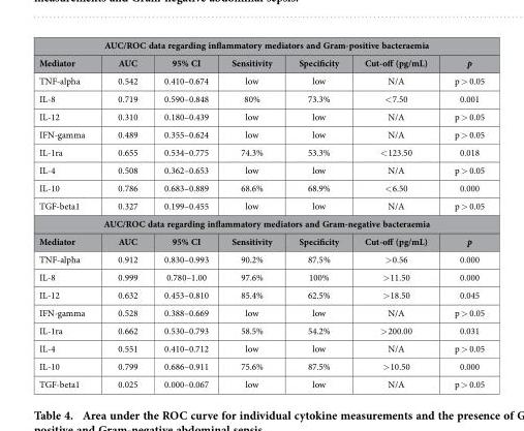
<table><thead><tr><td colspan="7">AUC/ROC data regarding inflammatory mediators and Gram-positive bacteraemia</td></tr><tr><td>Mediator</td><td>AUC</td><td>95% CI</td><td>Sensitivity</td><td>Specificity</td><td>Cut-off (pg/mL)</td><td>p</td></tr></thead><tbody><tr><td>TNF-alpha</td><td>0.542</td><td>0.410–0.674</td><td>low</td><td>low</td><td>N/A</td><td>p &gt; 0.05</td></tr><tr><td>IL-8</td><td>0.719</td><td>0.590–0.848</td><td>80%</td><td>73.3%</td><td>&lt; 7.50</td><td>0.001</td></tr><tr><td>IL-12</td><td>0.310</td><td>0.180–0.439</td><td>low</td><td>low</td><td>N/A</td><td>p &gt; 0.05</td></tr><tr><td>IFN-gamma</td><td>0.489</td><td>0.355–0.624</td><td>low</td><td>low</td><td>N/A</td><td>p &gt; 0.05</td></tr><tr><td>IL-1ra</td><td>0.655</td><td>0.534–0.775</td><td>74.3%</td><td>53.3%</td><td>&lt; 123.50</td><td>0.018</td></tr><tr><td>IL-4</td><td>0.508</td><td>0.362–0.653</td><td>low</td><td>low</td><td>N/A</td><td>p &gt; 0.05</td></tr><tr><td>IL-10</td><td>0.786</td><td>0.683–0.889</td><td>68.6%</td><td>68.9%</td><td>&lt; 6.50</td><td>0.000</td></tr><tr><td>TGF-beta1</td><td>0.327</td><td>0.199–0.455</td><td>low</td><td>low</td><td>N/A</td><td>p &gt; 0.05</td></tr><tr><td colspan="7">AUC/ROC data regarding inflammatory mediators and Gram-negative bacteraemia</td></tr><tr><td>Mediator</td><td>AUC</td><td>95% CI</td><td>Sensitivity</td><td>Specificity</td><td>Cut-off (pg/mL)</td><td>p</td></tr><tr><td>TNF-alpha</td><td>0.912</td><td>0.830–0.993</td><td>90.2%</td><td>87.5%</td><td>&gt; 0.56</td><td>0.000</td></tr><tr><td>IL-8</td><td>0.999</td><td>0.780–1.00</td><td>97.6%</td><td>100%</td><td>&gt; 11.50</td><td>0.000</td></tr><tr><td>IL-12</td><td>0.632</td><td>0.453–0.810</td><td>85.4%</td><td>62.5%</td><td>&gt; 18.50</td><td>0.045</td></tr><tr><td>IFN-gamma</td><td>0.528</td><td>0.388–0.669</td><td>low</td><td>low</td><td>N/A</td><td>p &gt; 0.05</td></tr><tr><td>IL-1ra</td><td>0.662</td><td>0.530–0.793</td><td>58.5%</td><td>54.2%</td><td>&gt; 200.00</td><td>0.031</td></tr><tr><td>IL-4</td><td>0.551</td><td>0.410–0.712</td><td>low</td><td>low</td><td>N/A</td><td>p &gt; 0.05</td></tr><tr><td>IL-10</td><td>0.799</td><td>0.686–0.911</td><td>75.6%</td><td>87.5%</td><td>&gt; 10.50</td><td>0.000</td></tr><tr><td>TGF-beta1</td><td>0.025</td><td>0.000–0.067</td><td>low</td><td>low</td><td>N/A</td><td>p &gt; 0.05</td></tr></tbody></table>